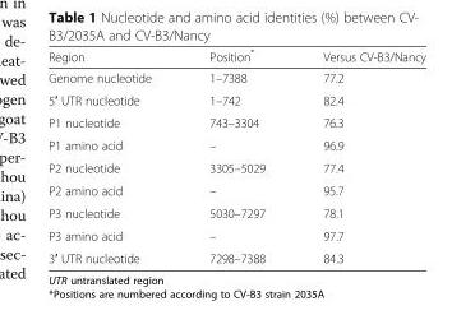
<table><thead><tr><td>Region</td><td>Position*</td><td>Versus CV-B3/Nancy</td></tr></thead><tbody><tr><td>Genome nucleotide</td><td>1–7388</td><td>77.2</td></tr><tr><td>5′ UTR nucleotide</td><td>1–742</td><td>82.4</td></tr><tr><td>P1 nucleotide</td><td>743–3304</td><td>76.3</td></tr><tr><td>P1 amino acid</td><td>–</td><td>96.9</td></tr><tr><td>P2 nucleotide</td><td>3305–5029</td><td>77.4</td></tr><tr><td>P2 amino acid</td><td>–</td><td>95.7</td></tr><tr><td>P3 nucleotide</td><td>5030–7297</td><td>78.1</td></tr><tr><td>P3 amino acid</td><td>–</td><td>97.7</td></tr><tr><td>3′ UTR nucleotide</td><td>7298–7388</td><td>84.3</td></tr></tbody></table>